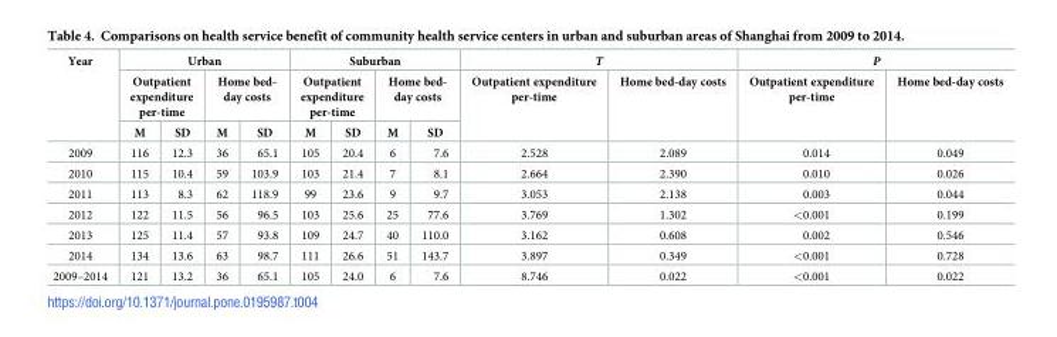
<table><thead><tr><td rowspan="3">Year</td><td colspan="4">Urban</td><td colspan="4">Suburban</td><td colspan="2">T</td><td colspan="2">P</td></tr><tr><td colspan="2">Outpatient expenditure per-time</td><td colspan="2">Home bed- day costs</td><td colspan="2">Outpatient expenditure per-time</td><td colspan="2">Home bed- day costs</td><td rowspan="2">Outpatient expenditure per-time</td><td rowspan="2">Home bed-day costs</td><td rowspan="2">Outpatient expenditure per-time</td><td rowspan="2">Home bed-day costs</td></tr><tr><td>M</td><td>SD</td><td>M</td><td>SD</td><td>M</td><td>SD</td><td>M</td><td>SD</td></tr></thead><tbody><tr><td>2009</td><td>116</td><td>12.3</td><td>36</td><td>65.1</td><td>105</td><td>20.4</td><td>6</td><td>7.6</td><td>2.528</td><td>2.089</td><td>0.014</td><td>0.049</td></tr><tr><td>2010</td><td>115</td><td>10.4</td><td>59</td><td>103.9</td><td>103</td><td>21.4</td><td>7</td><td>8.1</td><td>2.664</td><td>2.390</td><td>0.010</td><td>0.026</td></tr><tr><td>2011</td><td>113</td><td>8.3</td><td>62</td><td>118.9</td><td>99</td><td>23.6</td><td>9</td><td>9.7</td><td>3.053</td><td>2.138</td><td>0.003</td><td>0.044</td></tr><tr><td>2012</td><td>122</td><td>11.5</td><td>56</td><td>96.5</td><td>103</td><td>25.6</td><td>25</td><td>77.6</td><td>3.769</td><td>1.302</td><td>&lt;0.001</td><td>0.199</td></tr><tr><td>2013</td><td>125</td><td>11.4</td><td>57</td><td>93.8</td><td>109</td><td>24.7</td><td>40</td><td>110.0</td><td>3.162</td><td>0.608</td><td>0.002</td><td>0.546</td></tr><tr><td>2014</td><td>134</td><td>13.6</td><td>63</td><td>98.7</td><td>111</td><td>26.6</td><td>51</td><td>143.7</td><td>3.897</td><td>0.349</td><td>&lt;0.001</td><td>0.728</td></tr><tr><td>2009–2014</td><td>121</td><td>13.2</td><td>36</td><td>65.1</td><td>105</td><td>24.0</td><td>6</td><td>7.6</td><td>8.746</td><td>0.022</td><td>&lt;0.001</td><td>0.022</td></tr></tbody></table>